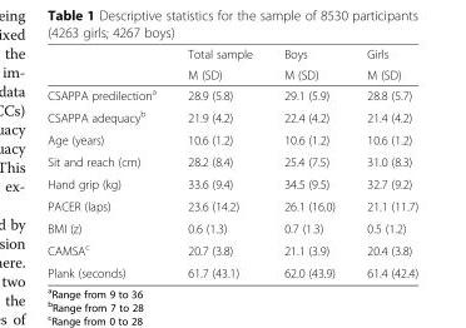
<table><thead><tr><td rowspan="2"></td><td rowspan="2">Total sample M (SD)</td><td rowspan="2">Boys M (SD)</td><td rowspan="2">Girls M (SD)</td></tr><tr></tr></thead><tbody><tr><td>CSAPPA predilection<sup>a</sup></td><td>28.9 (5.8)</td><td>29.1 (5.9)</td><td>28.8 (5.7)</td></tr><tr><td>CSAPPA adequacy<sup>b</sup></td><td>21.9 (4.2)</td><td>22.4 (4.2)</td><td>21.4 (4.2)</td></tr><tr><td>Age (years)</td><td>10.6 (1.2)</td><td>10.6 (1.2)</td><td>10.6 (1.2)</td></tr><tr><td>Sit and reach (cm)</td><td>28.2 (8.4)</td><td>25.4 (7.5)</td><td>31.0 (8.3)</td></tr><tr><td>Hand grip (kg)</td><td>33.6 (9.4)</td><td>34.5 (9.5)</td><td>32.7 (9.2)</td></tr><tr><td>PACER (laps)</td><td>23.6 (14.2)</td><td>26.1 (16.0)</td><td>21.1 (11.7)</td></tr><tr><td>BMI (z)</td><td>0.6 (1.3)</td><td>0.7 (1.3)</td><td>0.5 (1.2)</td></tr><tr><td>CAMSA<sup>c</sup></td><td>20.7 (3.8)</td><td>21.1 (3.9)</td><td>20.4 (3.8)</td></tr><tr><td>Plank (seconds)</td><td>61.7 (43.1)</td><td>62.0 (43.9)</td><td>61.4 (42.4)</td></tr></tbody></table>